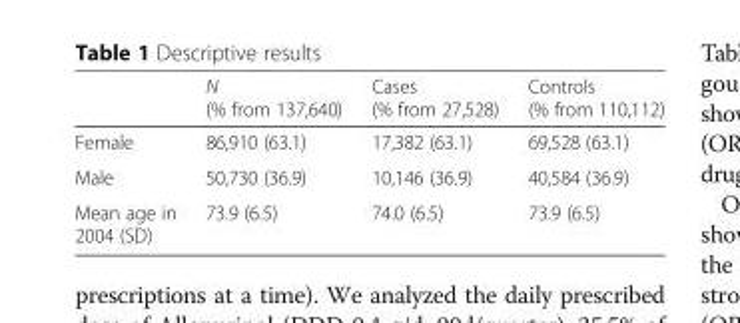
<table><thead><tr><td></td><td>N (% from 137,640)</td><td>Cases (% from 27,528)</td><td>Controls (% from 110,112)</td></tr></thead><tbody><tr><td>Female</td><td>86,910 (63.1)</td><td>17,382 (63.1)</td><td>69,528 (63.1)</td></tr><tr><td>Male</td><td>50,730 (36.9)</td><td>10,146 (36.9)</td><td>40,584 (36.9)</td></tr><tr><td>Mean age in 2004 (SD)</td><td>73.9 (6.5)</td><td>74.0 (6.5)</td><td>73.9 (6.5)</td></tr></tbody></table>